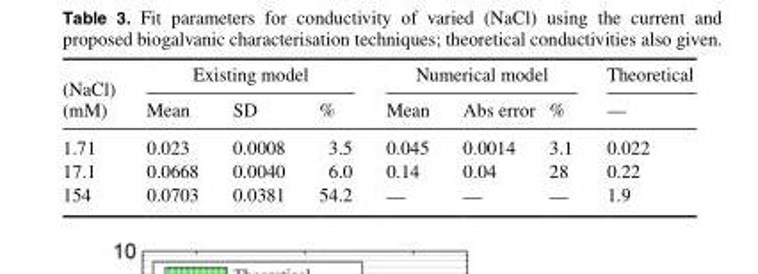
<table><thead><tr><td rowspan="2">(NaCl) (mM)</td><td colspan="3">Existing model</td><td colspan="3">Numerical model</td><td rowspan="2">Theoretical —</td></tr><tr><td>Mean</td><td>SD</td><td>%</td><td>Mean</td><td>Abs error</td><td>%</td></tr></thead><tbody><tr><td>1.71</td><td>0.023</td><td>0.0008</td><td>3.5</td><td>0.045</td><td>0.0014</td><td>3.1</td><td>0.022</td></tr><tr><td>17.1</td><td>0.0668</td><td>0.0040</td><td>6.0</td><td>0.14</td><td>0.04</td><td>28</td><td>0.22</td></tr><tr><td>154</td><td>0.0703</td><td>0.0381</td><td>54.2</td><td>—</td><td>—</td><td>—</td><td>1.9</td></tr></tbody></table>